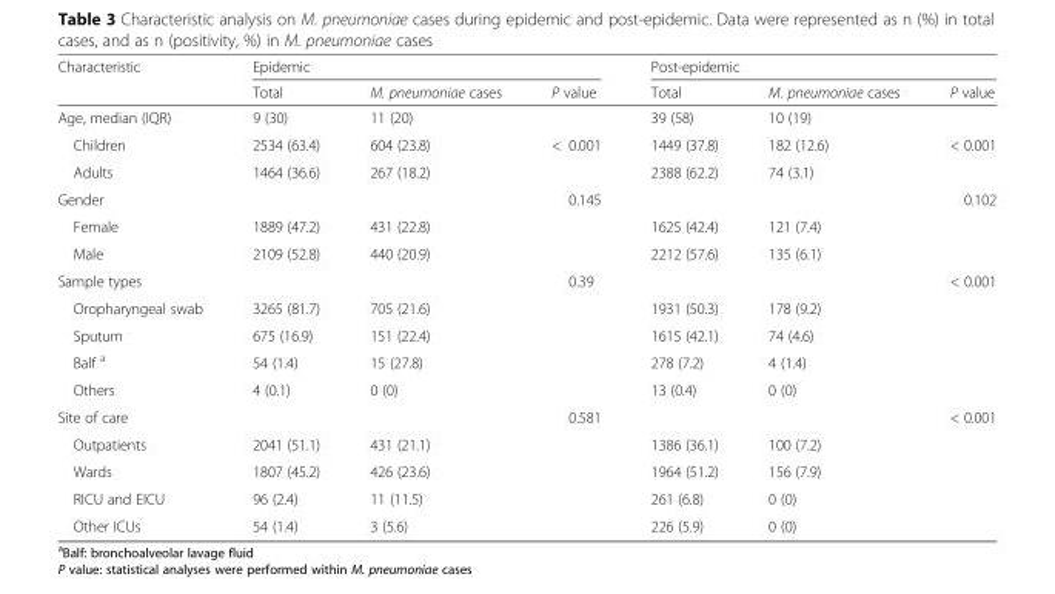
<table><thead><tr><td rowspan="2">Characteristic</td><td colspan="3">Epidemic</td><td colspan="3">Post-epidemic</td></tr><tr><td>Total</td><td>M. pneumoniae cases</td><td>P value</td><td>Total</td><td>M. pneumoniae cases</td><td>P value</td></tr></thead><tbody><tr><td>Age, median (IQR)</td><td>9 (30)</td><td>11 (20)</td><td></td><td>39 (58)</td><td>10 (19)</td><td></td></tr><tr><td>Children</td><td>2534 (63.4)</td><td>604 (23.8)</td><td rowspan="2">&lt; 0.001</td><td>1449 (37.8)</td><td>182 (12.6)</td><td rowspan="2">&lt; 0.001</td></tr><tr><td>Adults</td><td>1464 (36.6)</td><td>267 (18.2)</td><td>2388 (62.2)</td><td>74 (3.1)</td></tr><tr><td>Gender</td><td></td><td></td><td>0.145</td><td></td><td></td><td>0.102</td></tr><tr><td>Female</td><td>1889 (47.2)</td><td>431 (22.8)</td><td></td><td>1625 (42.4)</td><td>121 (7.4)</td><td></td></tr><tr><td>Male</td><td>2109 (52.8)</td><td>440 (20.9)</td><td></td><td>2212 (57.6)</td><td>135 (6.1)</td><td></td></tr><tr><td>Sample types</td><td></td><td></td><td>0.39</td><td></td><td></td><td>&lt; 0.001</td></tr><tr><td>Oropharyngeal swab</td><td>3265 (81.7)</td><td>705 (21.6)</td><td></td><td>1931 (50.3)</td><td>178 (9.2)</td><td></td></tr><tr><td>Sputum</td><td>675 (16.9)</td><td>151 (22.4)</td><td></td><td>1615 (42.1)</td><td>74 (4.6)</td><td></td></tr><tr><td>Balf <sup>a</sup></td><td>54 (1.4)</td><td>15 (27.8)</td><td></td><td>278 (7.2)</td><td>4 (1.4)</td><td></td></tr><tr><td>Others</td><td>4 (0.1)</td><td>0 (0)</td><td></td><td>13 (0.4)</td><td>0 (0)</td><td></td></tr><tr><td>Site of care</td><td></td><td></td><td>0.581</td><td></td><td></td><td>&lt; 0.001</td></tr><tr><td>Outpatients</td><td>2041 (51.1)</td><td>431 (21.1)</td><td></td><td>1386 (36.1)</td><td>100 (7.2)</td><td></td></tr><tr><td>Wards</td><td>1807 (45.2)</td><td>426 (23.6)</td><td></td><td>1964 (51.2)</td><td>156 (7.9)</td><td></td></tr><tr><td>RICU and EICU</td><td>96 (2.4)</td><td>11 (11.5)</td><td></td><td>261 (6.8)</td><td>0 (0)</td><td></td></tr><tr><td>Other ICUs</td><td>54 (1.4)</td><td>3 (5.6)</td><td></td><td>226 (5.9)</td><td>0 (0)</td><td></td></tr></tbody></table>